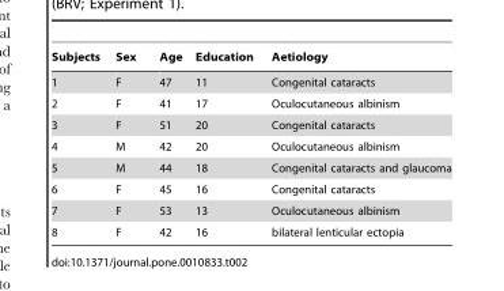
<table><thead><tr><td>Subjects</td><td>Sex</td><td>Age</td><td>Education</td><td>Aetiology</td></tr></thead><tbody><tr><td>1</td><td>F</td><td>47</td><td>11</td><td>Congenital cataracts</td></tr><tr><td>2</td><td>F</td><td>41</td><td>17</td><td>Oculocutaneous albinism</td></tr><tr><td>3</td><td>F</td><td>51</td><td>20</td><td>Congenital cataracts</td></tr><tr><td>4</td><td>M</td><td>42</td><td>20</td><td>Oculocutaneous albinism</td></tr><tr><td>5</td><td>M</td><td>44</td><td>18</td><td>Congenital cataracts and glaucoma</td></tr><tr><td>6</td><td>F</td><td>45</td><td>16</td><td>Congenital cataracts</td></tr><tr><td>7</td><td>F</td><td>53</td><td>13</td><td>Oculocutaneous albinism</td></tr><tr><td>8</td><td>F</td><td>42</td><td>16</td><td>bilateral lenticular ectopia</td></tr></tbody></table>